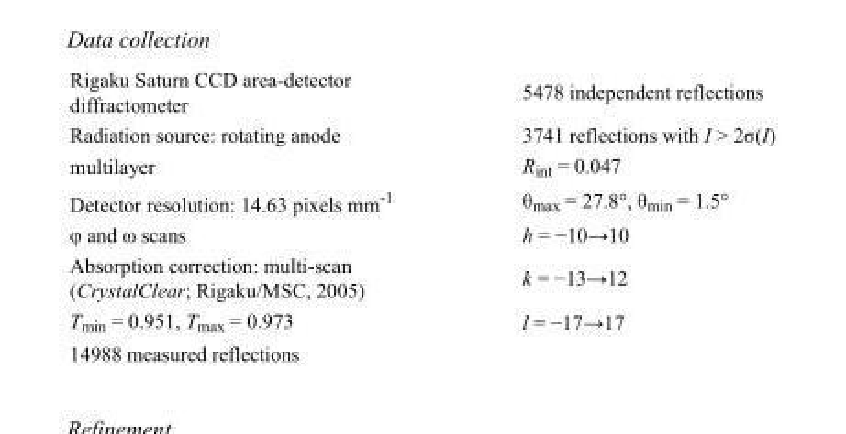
<table><tbody><tr><td>Rigaku Saturn CCD area-detector diffractometer</td><td>5478 independent reflections</td></tr><tr><td>Radiation source: rotating anode</td><td>3741 reflections with I &gt; 2σ(I)</td></tr><tr><td>multilayer</td><td>R<sub>int</sub> = 0.047</td></tr><tr><td>Detector resolution: 14.63 pixels mm<sup>-1</sup></td><td>θ<sub>max</sub> = 27.8°, θ<sub>min</sub> = 1.5°</td></tr><tr><td>φ and ω scans</td><td>h = −10→10</td></tr><tr><td>Absorption correction: multi-scan (CrystalClear; Rigaku/MSC, 2005)</td><td>k = −13→12</td></tr><tr><td>T<sub>min</sub> = 0.951, T<sub>max</sub> = 0.973</td><td>l = −17→17</td></tr><tr><td>14988 measured reflections</td><td></td></tr></tbody></table>